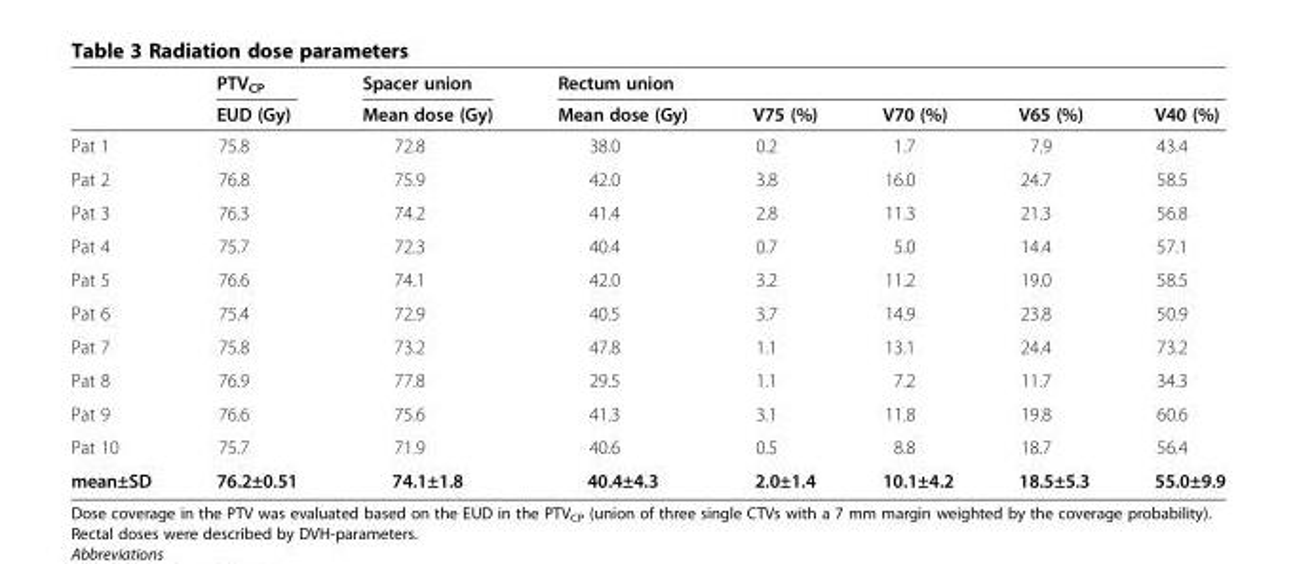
<table><thead><tr><td rowspan="2"></td><td rowspan="2">PTV<sub>CP</sub> EUD (Gy)</td><td rowspan="2">Spacer union Mean dose (Gy)</td><td colspan="5">Rectum union</td></tr><tr><td>Mean dose (Gy)</td><td>V75 (%)</td><td>V70 (%)</td><td>V65 (%)</td><td>V40 (%)</td></tr></thead><tbody><tr><td>Pat 1</td><td>75.8</td><td>72.8</td><td>38.0</td><td>0.2</td><td>1.7</td><td>7.9</td><td>43.4</td></tr><tr><td>Pat 2</td><td>76.8</td><td>75.9</td><td>42.0</td><td>3.8</td><td>16.0</td><td>24.7</td><td>58.5</td></tr><tr><td>Pat 3</td><td>76.3</td><td>74.2</td><td>41.4</td><td>2.8</td><td>11.3</td><td>21.3</td><td>56.8</td></tr><tr><td>Pat 4</td><td>75.7</td><td>72.3</td><td>40.4</td><td>0.7</td><td>5.0</td><td>14.4</td><td>57.1</td></tr><tr><td>Pat 5</td><td>76.6</td><td>74.1</td><td>42.0</td><td>3.2</td><td>11.2</td><td>19.0</td><td>58.5</td></tr><tr><td>Pat 6</td><td>75.4</td><td>72.9</td><td>40.5</td><td>3.7</td><td>14.9</td><td>23.8</td><td>50.9</td></tr><tr><td>Pat 7</td><td>75.8</td><td>73.2</td><td>47.8</td><td>1.1</td><td>13.1</td><td>24.4</td><td>73.2</td></tr><tr><td>Pat 8</td><td>76.9</td><td>77.8</td><td>29.5</td><td>1.1</td><td>7.2</td><td>11.7</td><td>34.3</td></tr><tr><td>Pat 9</td><td>76.6</td><td>75.6</td><td>41.3</td><td>3.1</td><td>11.8</td><td>19.8</td><td>60.6</td></tr><tr><td>Pat 10</td><td>75.7</td><td>71.9</td><td>40.6</td><td>0.5</td><td>8.8</td><td>18.7</td><td>56.4</td></tr><tr><td>mean±SD</td><td>76.2±0.51</td><td>74.1±1.8</td><td>40.4±4.3</td><td>2.0±1.4</td><td>10.1±4.2</td><td>18.5±5.3</td><td>55.0±9.9</td></tr></tbody></table>